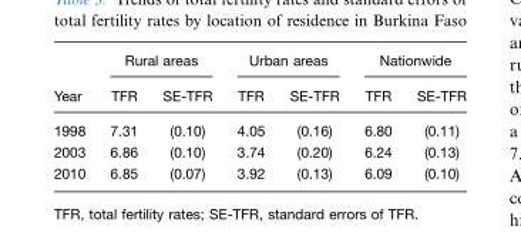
<table><thead><tr><td rowspan="2">Year</td><td colspan="2">Rural areas</td><td colspan="2">Urban areas</td><td colspan="2">Nationwide</td></tr><tr><td>TFR</td><td>SE-TFR</td><td>TFR</td><td>SE-TFR</td><td>TFR</td><td>SE-TFR</td></tr></thead><tbody><tr><td>1998</td><td>7.31</td><td>(0.10)</td><td>4.05</td><td>(0.16)</td><td>6.80</td><td>(0.11)</td></tr><tr><td>2003</td><td>6.86</td><td>(0.10)</td><td>3.74</td><td>(0.20)</td><td>6.24</td><td>(0.13)</td></tr><tr><td>2010</td><td>6.85</td><td>(0.07)</td><td>3.92</td><td>(0.13)</td><td>6.09</td><td>(0.10)</td></tr></tbody></table>